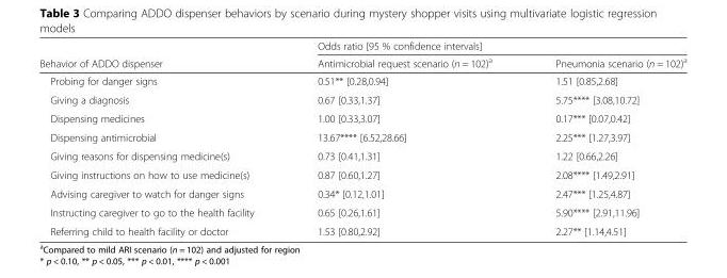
<table><thead><tr><td rowspan="2">Behavior of ADDO dispenser</td><td colspan="2">Odds ratio [95 % confidence intervals]</td></tr><tr><td>Antimicrobial request scenario (n = 102)<sup>a</sup></td><td>Pneumonia scenario (n = 102)<sup>a</sup></td></tr></thead><tbody><tr><td>Probing for danger signs</td><td>0.51** [0.28,0.94]</td><td>1.51 [0.85,2.68]</td></tr><tr><td>Giving a diagnosis</td><td>0.67 [0.33,1.37]</td><td>5.75**** [3.08,10.72]</td></tr><tr><td>Dispensing medicines</td><td>1.00 [0.33,3.07]</td><td>0.17*** [0.07,0.42]</td></tr><tr><td>Dispensing antimicrobial</td><td>13.67**** [6.52,28.66]</td><td>2.25*** [1.27,3.97]</td></tr><tr><td>Giving reasons for dispensing medicine(s)</td><td>0.73 [0.41,1.31]</td><td>1.22 [0.66,2.26]</td></tr><tr><td>Giving instructions on how to use medicine(s)</td><td>0.87 [0.60,1.27]</td><td>2.08**** [1.49,2.91]</td></tr><tr><td>Advising caregiver to watch for danger signs</td><td>0.34* [0.12,1.01]</td><td>2.47*** [1.25,4.87]</td></tr><tr><td>Instructing caregiver to go to the health facility</td><td>0.65 [0.26,1.61]</td><td>5.90**** [2.91,11.96]</td></tr><tr><td>Referring child to health facility or doctor</td><td>1.53 [0.80,2.92]</td><td>2.27** [1.14,4.51]</td></tr></tbody></table>